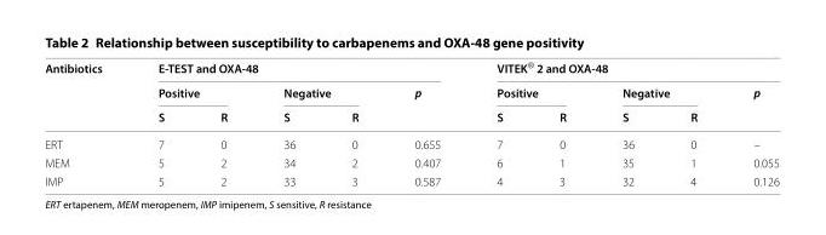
<table><thead><tr><td rowspan="3">Antibiotics</td><td colspan="5">E-TEST and OXA-48</td><td colspan="5">VITEK<sup>®</sup> 2 and OXA-48</td></tr><tr><td colspan="2">Positive</td><td colspan="2">Negative</td><td rowspan="2">p</td><td colspan="2">Positive</td><td colspan="2">Negative</td><td rowspan="2">p</td></tr><tr><td>S</td><td>R</td><td>S</td><td>R</td><td>S</td><td>R</td><td>S</td><td>R</td></tr></thead><tbody><tr><td>ERT</td><td>7</td><td>0</td><td>36</td><td>0</td><td>0.655</td><td>7</td><td>0</td><td>36</td><td>0</td><td>–</td></tr><tr><td>MEM</td><td>5</td><td>2</td><td>34</td><td>2</td><td>0.407</td><td>6</td><td>1</td><td>35</td><td>1</td><td>0.055</td></tr><tr><td>IMP</td><td>5</td><td>2</td><td>33</td><td>3</td><td>0.587</td><td>4</td><td>3</td><td>32</td><td>4</td><td>0.126</td></tr></tbody></table>